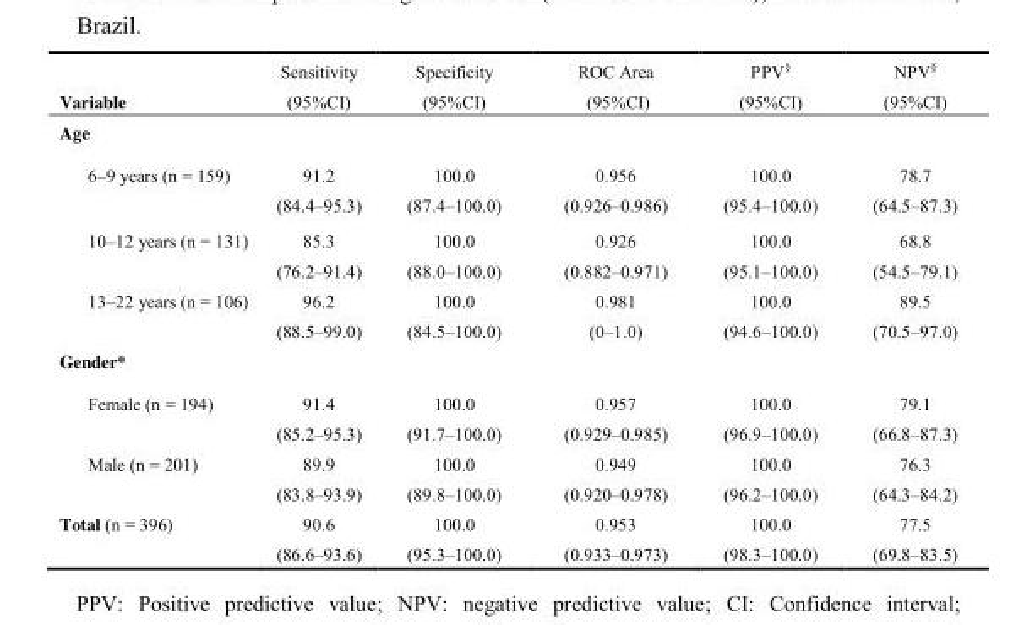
<table><thead><tr><td>Variable</td><td>Sensitivity (95%CI)</td><td>Specificity (95%CI)</td><td>ROC Area (95%CI)</td><td>PPV§ (95%CI)</td><td>NPV§ (95%CI)</td></tr></thead><tbody><tr><td colspan="6">Age</td></tr><tr><td>6–9 years (n = 159)</td><td>91.2 (84.4–95.3)</td><td>100.0 (87.4–100.0)</td><td>0.956 (0.926–0.986)</td><td>100.0 (95.4–100.0)</td><td>78.7 (64.5–87.3)</td></tr><tr><td>10–12 years (n = 131)</td><td>85.3 (76.2–91.4)</td><td>100.0 (88.0–100.0)</td><td>0.926 (0.882–0.971)</td><td>100.0 (95.1–100.0)</td><td>68.8 (54.5–79.1)</td></tr><tr><td>13–22 years (n = 106)</td><td>96.2 (88.5–99.0)</td><td>100.0 (84.5–100.0)</td><td>0.981 (0–1.0)</td><td>100.0 (94.6–100.0)</td><td>89.5 (70.5–97.0)</td></tr><tr><td colspan="6">Gender*</td></tr><tr><td>Female (n = 194)</td><td>91.4 (85.2–95.3)</td><td>100.0 (91.7–100.0)</td><td>0.957 (0.929–0.985)</td><td>100.0 (96.9–100.0)</td><td>79.1 (66.8–87.3)</td></tr><tr><td>Male (n = 201)</td><td>89.9 (83.8–93.9)</td><td>100.0 (89.8–100.0)</td><td>0.949 (0.920–0.978)</td><td>100.0 (96.2–100.0)</td><td>76.3 (64.3–84.2)</td></tr><tr><td>Total (n = 396)</td><td>90.6 (86.6–93.6)</td><td>100.0 (95.3–100.0)</td><td>0.953 (0.933–0.973)</td><td>100.0 (98.3–100.0)</td><td>77.5 (69.8–83.5)</td></tr></tbody></table>